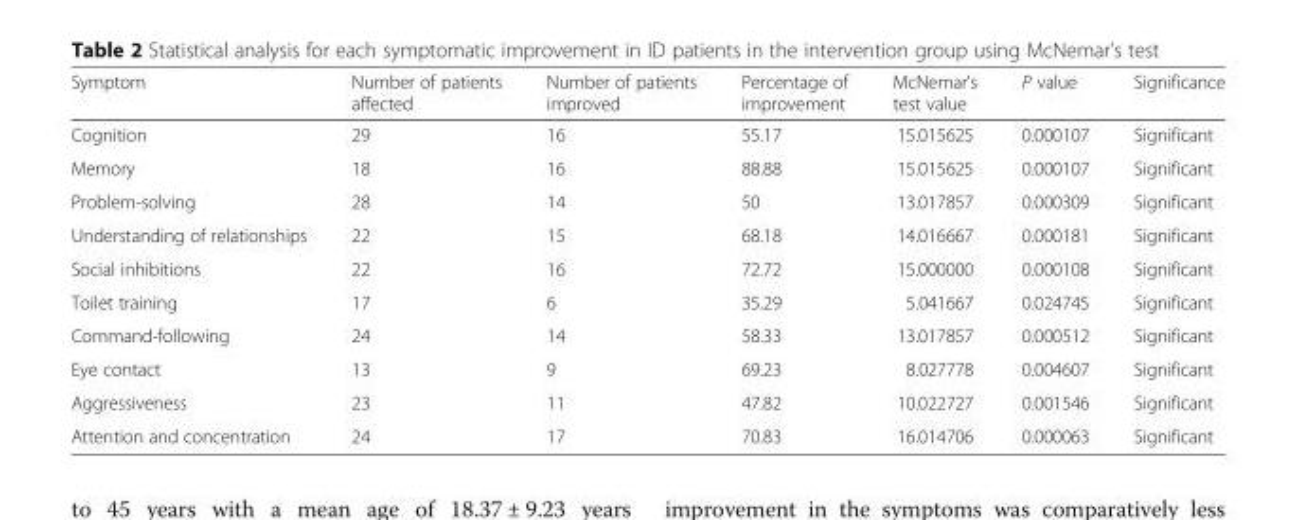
<table><thead><tr><td>Symptom</td><td>Number of patients affected</td><td>Number of patients improved</td><td>Percentage of improvement</td><td>McNemar’s test value</td><td>P value</td><td>Significance</td></tr></thead><tbody><tr><td>Cognition</td><td>29</td><td>16</td><td>55.17</td><td>15.015625</td><td>0.000107</td><td>Significant</td></tr><tr><td>Memory</td><td>18</td><td>16</td><td>88.88</td><td>15.015625</td><td>0.000107</td><td>Significant</td></tr><tr><td>Problem-solving</td><td>28</td><td>14</td><td>50</td><td>13.017857</td><td>0.000309</td><td>Significant</td></tr><tr><td>Understanding of relationships</td><td>22</td><td>15</td><td>68.18</td><td>14.016667</td><td>0.000181</td><td>Significant</td></tr><tr><td>Social inhibitions</td><td>22</td><td>16</td><td>72.72</td><td>15.000000</td><td>0.000108</td><td>Significant</td></tr><tr><td>Toilet training</td><td>17</td><td>6</td><td>35.29</td><td>5.041667</td><td>0.024745</td><td>Significant</td></tr><tr><td>Command-following</td><td>24</td><td>14</td><td>58.33</td><td>13.017857</td><td>0.000512</td><td>Significant</td></tr><tr><td>Eye contact</td><td>13</td><td>9</td><td>69.23</td><td>8.027778</td><td>0.004607</td><td>Significant</td></tr><tr><td>Aggressiveness</td><td>23</td><td>11</td><td>47.82</td><td>10.022727</td><td>0.001546</td><td>Significant</td></tr><tr><td>Attention and concentration</td><td>24</td><td>17</td><td>70.83</td><td>16.014706</td><td>0.000063</td><td>Significant</td></tr></tbody></table>